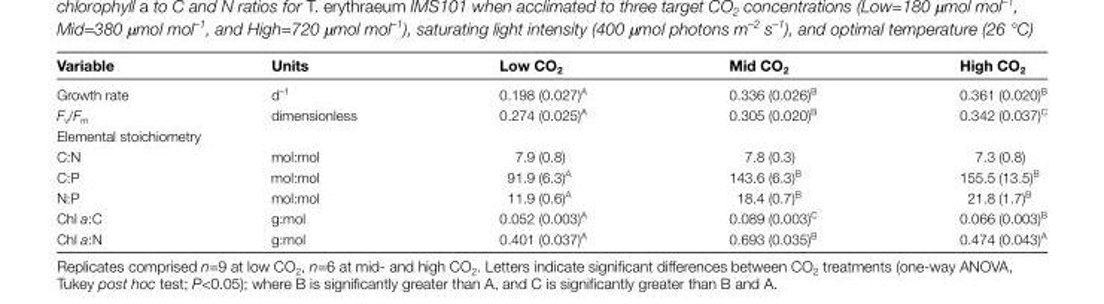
<table><thead><tr><td>Variable</td><td>Units</td><td>Low CO<sub>2</sub></td><td>Mid CO<sub>2</sub></td><td>High CO<sub>2</sub></td></tr></thead><tbody><tr><td>Growth rate</td><td>d<sup>–1</sup></td><td>0.198 (0.027)<sup>A</sup></td><td>0.336 (0.026)<sup>B</sup></td><td>0.361 (0.020)<sup>B</sup></td></tr><tr><td>F<sub>v</sub>/F<sub>m</sub></td><td>dimensionless</td><td>0.274 (0.025)<sup>A</sup></td><td>0.305 (0.020)<sup>B</sup></td><td>0.342 (0.037)<sup>C</sup></td></tr><tr><td colspan="5">Elemental stoichiometry</td></tr><tr><td>C:N</td><td>mol:mol</td><td>7.9 (0.8)</td><td>7.8 (0.3)</td><td>7.3 (0.8)</td></tr><tr><td>C:P</td><td>mol:mol</td><td>91.9 (6.3)<sup>A</sup></td><td>143.6 (6.3)<sup>B</sup></td><td>155.5 (13.5)<sup>B</sup></td></tr><tr><td>N:P</td><td>mol:mol</td><td>11.9 (0.6)<sup>A</sup></td><td>18.4 (0.7)<sup>B</sup></td><td>21.8 (1.7)<sup>B</sup></td></tr><tr><td>Chl a:C</td><td>g:mol</td><td>0.052 (0.003)<sup>A</sup></td><td>0.089 (0.003)<sup>C</sup></td><td>0.066 (0.003)<sup>B</sup></td></tr><tr><td>Chl a:N</td><td>g:mol</td><td>0.401 (0.037)<sup>A</sup></td><td>0.693 (0.035)<sup>B</sup></td><td>0.474 (0.043)<sup>A</sup></td></tr></tbody></table>